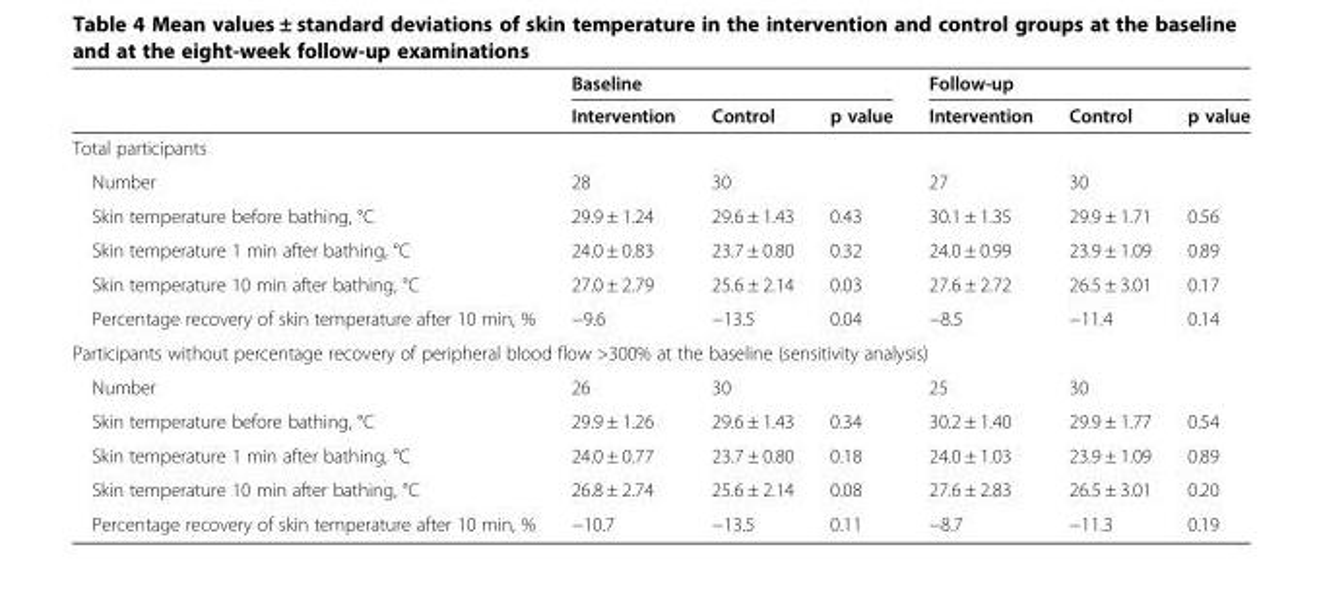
<table><thead><tr><td rowspan="2"></td><td colspan="3">Baseline</td><td colspan="3">Follow-up</td></tr><tr><td>Intervention</td><td>Control</td><td>p value</td><td>Intervention</td><td>Control</td><td>p value</td></tr></thead><tbody><tr><td colspan="7">Total participants</td></tr><tr><td>Number</td><td>28</td><td>30</td><td></td><td>27</td><td>30</td><td></td></tr><tr><td>Skin temperature before bathing, °C</td><td>29.9 ± 1.24</td><td>29.6 ± 1.43</td><td>0.43</td><td>30.1 ± 1.35</td><td>29.9 ± 1.71</td><td>0.56</td></tr><tr><td>Skin temperature 1 min after bathing, °C</td><td>24.0 ± 0.83</td><td>23.7 ± 0.80</td><td>0.32</td><td>24.0 ± 0.99</td><td>23.9 ± 1.09</td><td>0.89</td></tr><tr><td>Skin temperature 10 min after bathing, °C</td><td>27.0 ± 2.79</td><td>25.6 ± 2.14</td><td>0.03</td><td>27.6 ± 2.72</td><td>26.5 ± 3.01</td><td>0.17</td></tr><tr><td>Percentage recovery of skin temperature after 10 min, %</td><td>−9.6</td><td>−13.5</td><td>0.04</td><td>−8.5</td><td>−11.4</td><td>0.14</td></tr><tr><td colspan="7">Participants without percentage recovery of peripheral blood flow &gt;300% at the baseline (sensitivity analysis)</td></tr><tr><td>Number</td><td>26</td><td>30</td><td></td><td>25</td><td>30</td><td></td></tr><tr><td>Skin temperature before bathing, °C</td><td>29.9 ± 1.26</td><td>29.6 ± 1.43</td><td>0.34</td><td>30.2 ± 1.40</td><td>29.9 ± 1.77</td><td>0.54</td></tr><tr><td>Skin temperature 1 min after bathing, °C</td><td>24.0 ± 0.77</td><td>23.7 ± 0.80</td><td>0.18</td><td>24.0 ± 1.03</td><td>23.9 ± 1.09</td><td>0.89</td></tr><tr><td>Skin temperature 10 min after bathing, °C</td><td>26.8 ± 2.74</td><td>25.6 ± 2.14</td><td>0.08</td><td>27.6 ± 2.83</td><td>26.5 ± 3.01</td><td>0.20</td></tr><tr><td>Percentage recovery of skin temperature after 10 min, %</td><td>−10.7</td><td>−13.5</td><td>0.11</td><td>−8.7</td><td>−11.3</td><td>0.19</td></tr></tbody></table>